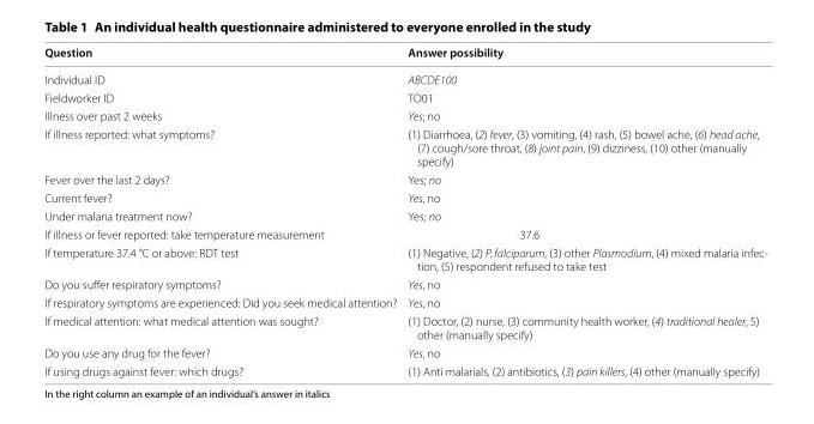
<table><thead><tr><td>Question</td><td>Answer possibility</td></tr></thead><tbody><tr><td>Individual ID</td><td>ABCDE100</td></tr><tr><td>Fieldworker ID</td><td>TO01</td></tr><tr><td>Illness over past 2 weeks</td><td>Yes; no</td></tr><tr><td>If illness reported: what symptoms?</td><td>(1) Diarrhoea, (2) fever, (3) vomiting, (4) rash, (5) bowel ache, (6) head ache, (7) cough/sore throat, (8) joint pain, (9) dizziness, (10) other (manually specify)</td></tr><tr><td>Fever over the last 2 days?</td><td>Yes; no</td></tr><tr><td>Current fever?</td><td>Yes, no</td></tr><tr><td>Under malaria treatment now?</td><td>Yes; no</td></tr><tr><td>If illness or fever reported: take temperature measurement</td><td>37.6</td></tr><tr><td>If temperature 37.4 °C or above: RDT test</td><td>(1) Negative, (2) P. falciparum, (3) other Plasmodium, (4) mixed malaria infec- tion, (5) respondent refused to take test</td></tr><tr><td>Do you suffer respiratory symptoms?</td><td>Yes, no</td></tr><tr><td>If respiratory symptoms are experienced: Did you seek medical attention?</td><td>Yes, no</td></tr><tr><td>If medical attention: what medical attention was sought?</td><td>(1) Doctor, (2) nurse, (3) community health worker, (4) traditional healer, 5) other (manually specify)</td></tr><tr><td>Do you use any drug for the fever?</td><td>Yes, no</td></tr><tr><td>If using drugs against fever: which drugs?</td><td>(1) Anti malarials, (2) antibiotics, (3) pain killers, (4) other (manually specify)</td></tr></tbody></table>